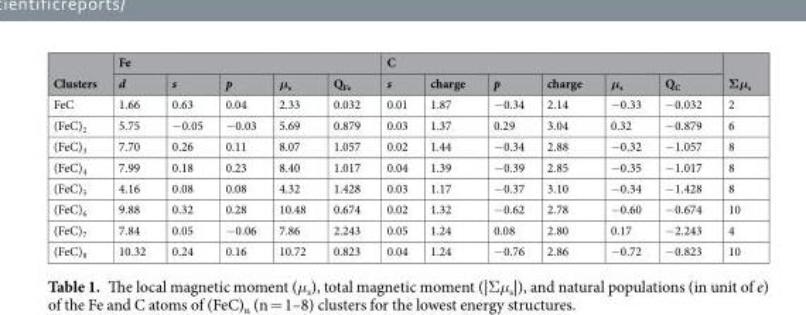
<table><thead><tr><td rowspan="2">Clusters</td><td colspan="5">Fe</td><td colspan="6">C</td><td rowspan="2">Σμ<sub>s</sub></td></tr><tr><td>d</td><td>s</td><td>p</td><td>μ<sub>s</sub></td><td>Q<sub>Fe</sub></td><td>s</td><td>charge</td><td>p</td><td>charge</td><td>μ<sub>s</sub></td><td>Q<sub>C</sub></td></tr></thead><tbody><tr><td>FeC</td><td>1.66</td><td>0.63</td><td>0.04</td><td>2.33</td><td>0.032</td><td>0.01</td><td>1.87</td><td>−0.34</td><td>2.14</td><td>−0.33</td><td>−0.032</td><td>2</td></tr><tr><td>(FeC)<sub>2</sub></td><td>5.75</td><td>−0.05</td><td>−0.03</td><td>5.69</td><td>0.879</td><td>0.03</td><td>1.37</td><td>0.29</td><td>3.04</td><td>0.32</td><td>−0.879</td><td>6</td></tr><tr><td>(FeC)<sub>3</sub></td><td>7.70</td><td>0.26</td><td>0.11</td><td>8.07</td><td>1.057</td><td>0.02</td><td>1.44</td><td>−0.34</td><td>2.88</td><td>−0.32</td><td>−1.057</td><td>8</td></tr><tr><td>(FeC)<sub>4</sub></td><td>7.99</td><td>0.18</td><td>0.23</td><td>8.40</td><td>1.017</td><td>0.04</td><td>1.39</td><td>−0.39</td><td>2.85</td><td>−0.35</td><td>−1.017</td><td>8</td></tr><tr><td>(FeC)<sub>5</sub></td><td>4.16</td><td>0.08</td><td>0.08</td><td>4.32</td><td>1.428</td><td>0.03</td><td>1.17</td><td>−0.37</td><td>3.10</td><td>−0.34</td><td>−1.428</td><td>8</td></tr><tr><td>(FeC)<sub>6</sub></td><td>9.88</td><td>0.32</td><td>0.28</td><td>10.48</td><td>0.674</td><td>0.02</td><td>1.32</td><td>−0.62</td><td>2.78</td><td>−0.60</td><td>−0.674</td><td>10</td></tr><tr><td>(FeC)<sub>7</sub></td><td>7.84</td><td>0.05</td><td>−0.06</td><td>7.86</td><td>2.243</td><td>0.05</td><td>1.24</td><td>0.08</td><td>2.80</td><td>0.17</td><td>−2.243</td><td>4</td></tr><tr><td>(FeC)<sub>8</sub></td><td>10.32</td><td>0.24</td><td>0.16</td><td>10.72</td><td>0.823</td><td>0.04</td><td>1.24</td><td>−0.76</td><td>2.86</td><td>−0.72</td><td>−0.823</td><td>10</td></tr></tbody></table>